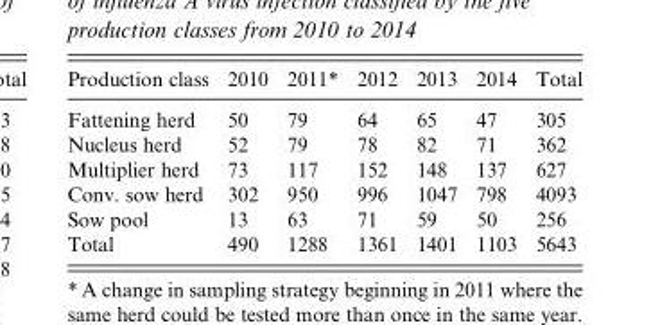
<table><thead><tr><td>Production class</td><td>2010</td><td>2011*</td><td>2012</td><td>2013</td><td>2014</td><td>Total</td></tr></thead><tbody><tr><td>Fattening herd</td><td>50</td><td>79</td><td>64</td><td>65</td><td>47</td><td>305</td></tr><tr><td>Nucleus herd</td><td>52</td><td>79</td><td>78</td><td>82</td><td>71</td><td>362</td></tr><tr><td>Multiplier herd</td><td>73</td><td>117</td><td>152</td><td>148</td><td>137</td><td>627</td></tr><tr><td>Conv. sow herd</td><td>302</td><td>950</td><td>996</td><td>1047</td><td>798</td><td>4093</td></tr><tr><td>Sow pool</td><td>13</td><td>63</td><td>71</td><td>59</td><td>50</td><td>256</td></tr><tr><td>Total</td><td>490</td><td>1288</td><td>1361</td><td>1401</td><td>1103</td><td>5643</td></tr></tbody></table>